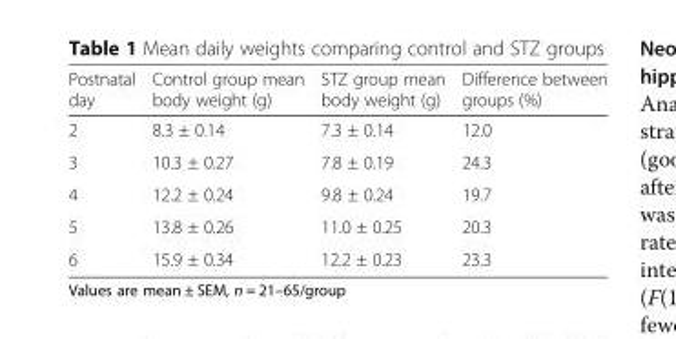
<table><thead><tr><td>Postnatal day</td><td>Control group mean body weight (g)</td><td>STZ group mean body weight (g)</td><td>Difference between groups (%)</td></tr></thead><tbody><tr><td>2</td><td>8.3 ± 0.14</td><td>7.3 ± 0.14</td><td>12.0</td></tr><tr><td>3</td><td>10.3 ± 0.27</td><td>7.8 ± 0.19</td><td>24.3</td></tr><tr><td>4</td><td>12.2 ± 0.24</td><td>9.8 ± 0.24</td><td>19.7</td></tr><tr><td>5</td><td>13.8 ± 0.26</td><td>11.0 ± 0.25</td><td>20.3</td></tr><tr><td>6</td><td>15.9 ± 0.34</td><td>12.2 ± 0.23</td><td>23.3</td></tr></tbody></table>